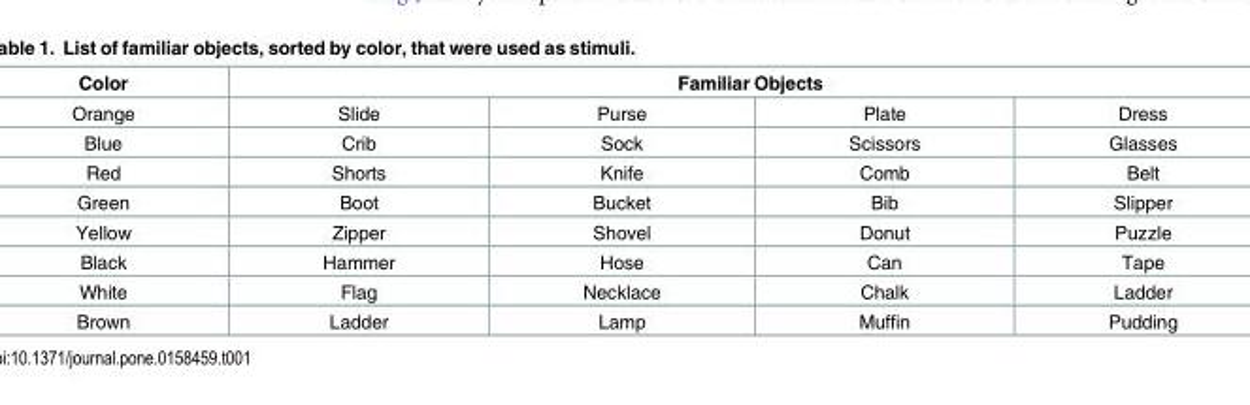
<table><thead><tr><td rowspan="2">Color Orange</td><td colspan="4">Familiar Objects</td></tr><tr><td>Slide</td><td>Purse</td><td>Plate</td><td>Dress</td></tr></thead><tbody><tr><td>Blue</td><td>Crib</td><td>Sock</td><td>Scissors</td><td>Glasses</td></tr><tr><td>Red</td><td>Shorts</td><td>Knife</td><td>Comb</td><td>Belt</td></tr><tr><td>Green</td><td>Boot</td><td>Bucket</td><td>Bib</td><td>Slipper</td></tr><tr><td>Yellow</td><td>Zipper</td><td>Shovel</td><td>Donut</td><td>Puzzle</td></tr><tr><td>Black</td><td>Hammer</td><td>Hose</td><td>Can</td><td>Tape</td></tr><tr><td>White</td><td>Flag</td><td>Necklace</td><td>Chalk</td><td>Ladder</td></tr><tr><td>Brown</td><td>Ladder</td><td>Lamp</td><td>Muffin</td><td>Pudding</td></tr></tbody></table>